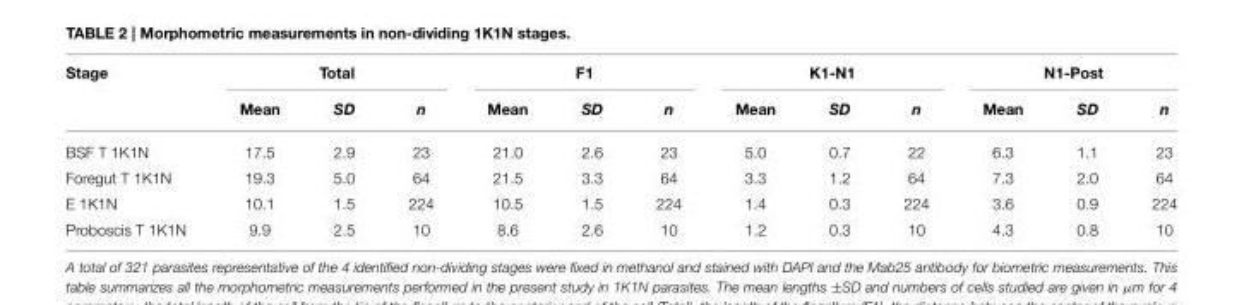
<table><thead><tr><td rowspan="2">Stage</td><td colspan="3">Total</td><td colspan="3">F1</td><td colspan="3">K1-N1</td><td colspan="3">N1-Post</td></tr><tr><td>Mean</td><td>SD</td><td>n</td><td>Mean</td><td>SD</td><td>n</td><td>Mean</td><td>SD</td><td>n</td><td>Mean</td><td>SD</td><td>n</td></tr></thead><tbody><tr><td>BSF T 1K1N</td><td>17.5</td><td>2.9</td><td>23</td><td>21.0</td><td>2.6</td><td>23</td><td>5.0</td><td>0.7</td><td>22</td><td>6.3</td><td>1.1</td><td>23</td></tr><tr><td>Foregut T 1K1N</td><td>19.3</td><td>5.0</td><td>64</td><td>21.5</td><td>3.3</td><td>64</td><td>3.3</td><td>1.2</td><td>64</td><td>7.3</td><td>2.0</td><td>64</td></tr><tr><td>E 1K1N</td><td>10.1</td><td>1.5</td><td>224</td><td>10.5</td><td>1.5</td><td>224</td><td>1.4</td><td>0.3</td><td>224</td><td>3.6</td><td>0.9</td><td>224</td></tr><tr><td>Proboscis T 1K1N</td><td>9.9</td><td>2.5</td><td>10</td><td>8.6</td><td>2.6</td><td>10</td><td>1.2</td><td>0.3</td><td>10</td><td>4.3</td><td>0.8</td><td>10</td></tr></tbody></table>